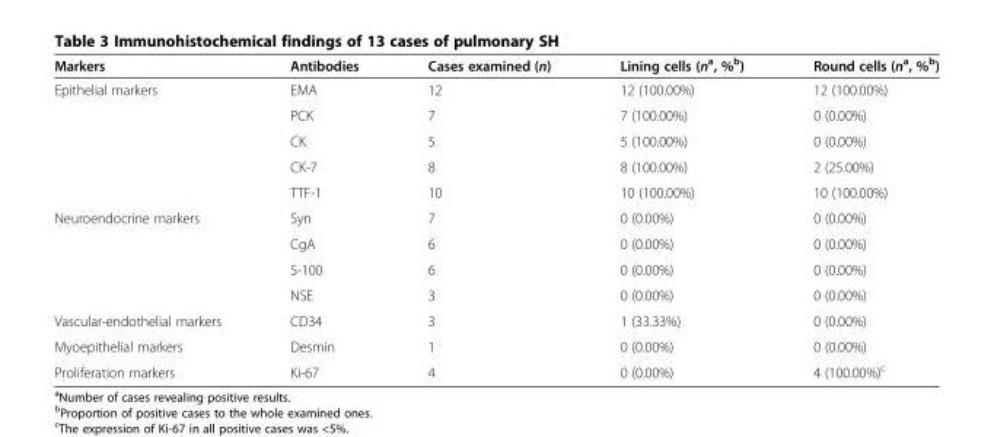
<table><thead><tr><td>Markers</td><td>Antibodies</td><td>Cases examined (n)</td><td>Lining cells (n<sup>a</sup>, %<sup>b</sup>)</td><td>Round cells (n<sup>a</sup>, %<sup>b</sup>)</td></tr></thead><tbody><tr><td rowspan="5">Epithelial markers</td><td>EMA</td><td>12</td><td>12 (100.00%)</td><td>12 (100.00%)</td></tr><tr><td>PCK</td><td>7</td><td>7 (100.00%)</td><td>0 (0.00%)</td></tr><tr><td>CK</td><td>5</td><td>5 (100.00%)</td><td>0 (0.00%)</td></tr><tr><td>CK-7</td><td>8</td><td>8 (100.00%)</td><td>2 (25.00%)</td></tr><tr><td>TTF-1</td><td>10</td><td>10 (100.00%)</td><td>10 (100.00%)</td></tr><tr><td rowspan="4">Neuroendocrine markers</td><td>Syn</td><td>7</td><td>0 (0.00%)</td><td>0 (0.00%)</td></tr><tr><td>CgA</td><td>6</td><td>0 (0.00%)</td><td>0 (0.00%)</td></tr><tr><td>S-100</td><td>6</td><td>0 (0.00%)</td><td>0 (0.00%)</td></tr><tr><td>NSE</td><td>3</td><td>0 (0.00%)</td><td>0 (0.00%)</td></tr><tr><td>Vascular-endothelial markers</td><td>CD34</td><td>3</td><td>1 (33.33%)</td><td>0 (0.00%)</td></tr><tr><td>Myoepithelial markers</td><td>Desmin</td><td>1</td><td>0 (0.00%)</td><td>0 (0.00%)</td></tr><tr><td>Proliferation markers</td><td>Ki-67</td><td>4</td><td>0 (0.00%)</td><td>4 (100.00%)<sup>c</sup></td></tr></tbody></table>